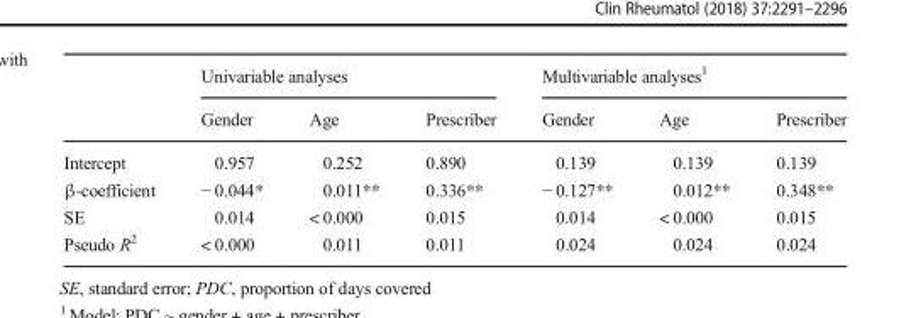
<table><thead><tr><td rowspan="2"></td><td colspan="3">Univariable analyses</td><td colspan="3">Multivariable analyses<sup>1</sup></td></tr><tr><td>Gender</td><td>Age</td><td>Prescriber</td><td>Gender</td><td>Age</td><td>Prescriber</td></tr></thead><tbody><tr><td>Intercept</td><td>0.957</td><td>0.252</td><td>0.890</td><td>0.139</td><td>0.139</td><td>0.139</td></tr><tr><td>β-coefficient</td><td>− 0.044*</td><td>0.011**</td><td>0.336**</td><td>− 0.127**</td><td>0.012**</td><td>0.348**</td></tr><tr><td>SE</td><td>0.014</td><td>&lt; 0.000</td><td>0.015</td><td>0.014</td><td>&lt; 0.000</td><td>0.015</td></tr><tr><td>Pseudo R<sup>2</sup></td><td>&lt; 0.000</td><td>0.011</td><td>0.011</td><td>0.024</td><td>0.024</td><td>0.024</td></tr></tbody></table>